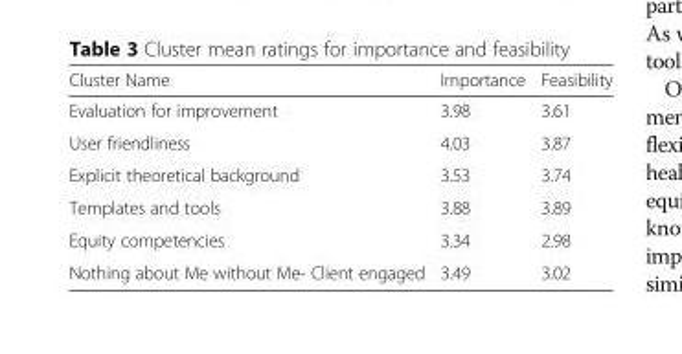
<table><thead><tr><td>Cluster Name</td><td>Importance</td><td>Feasibility</td></tr></thead><tbody><tr><td>Evaluation for improvement</td><td>3.98</td><td>3.61</td></tr><tr><td>User friendliness</td><td>4.03</td><td>3.87</td></tr><tr><td>Explicit theoretical background</td><td>3.53</td><td>3.74</td></tr><tr><td>Templates and tools</td><td>3.88</td><td>3.89</td></tr><tr><td>Equity competencies</td><td>3.34</td><td>2.98</td></tr><tr><td>Nothing about Me without Me- Client engaged</td><td>3.49</td><td>3.02</td></tr></tbody></table>